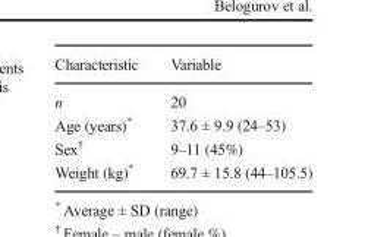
<table><thead><tr><td>Characteristic</td><td>Variable</td></tr></thead><tbody><tr><td>n</td><td>20</td></tr><tr><td>Age (years)*</td><td>37.6 ± 9.9 (24–53)</td></tr><tr><td>Sex<sup>†</sup></td><td>9–11 (45%)</td></tr><tr><td>Weight (kg)*</td><td>69.7 ± 15.8 (44–105.5)</td></tr></tbody></table>